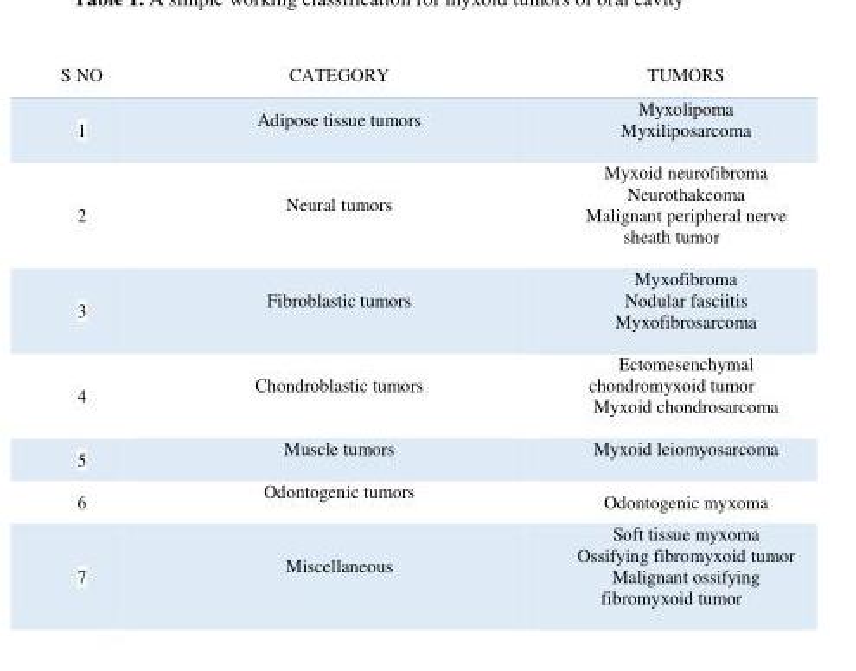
<table><thead><tr><td>S NO</td><td>CATEGORY</td><td>TUMORS</td></tr></thead><tbody><tr><td>1</td><td>Adipose tissue tumors</td><td>Myxolipoma Myxiliposarcoma</td></tr><tr><td>2</td><td>Neural tumors</td><td>Myxoid neurofibroma Neurothakeoma Malignant peripheral nerve sheath tumor</td></tr><tr><td>3</td><td>Fibroblastic tumors</td><td>Myxofibroma Nodular fasciitis Myxofibrosarcoma</td></tr><tr><td>4</td><td>Chondroblastic tumors</td><td>Ectomesenchymal chondromyxoid tumor Myxoid chondrosarcoma</td></tr><tr><td>5</td><td>Muscle tumors</td><td>Myxoid leiomyosarcoma</td></tr><tr><td>6</td><td>Odontogenic tumors</td><td>Odontogenic myxoma</td></tr><tr><td>7</td><td>Miscellaneous</td><td>Soft tissue myxoma Ossifying fibromyxoid tumor Malignant ossifying fibromyxoid tumor</td></tr></tbody></table>